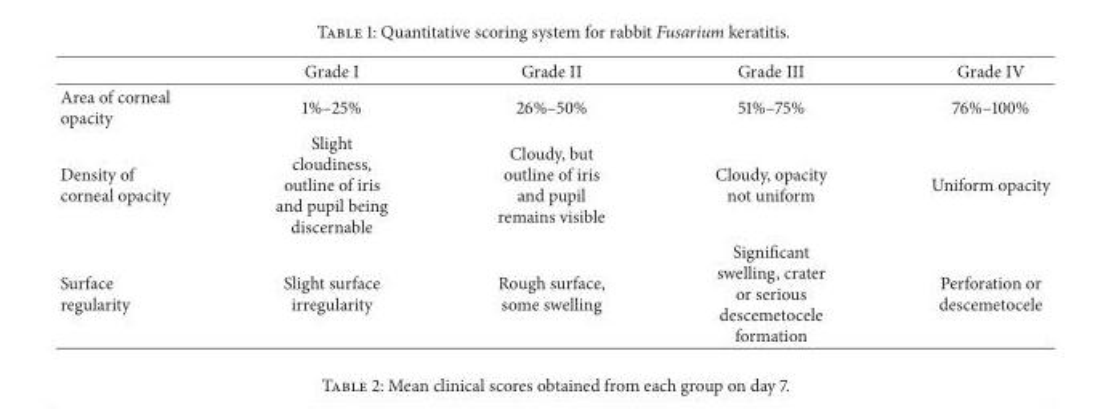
<table><thead><tr><td></td><td>Grade I</td><td>Grade II</td><td>Grade III</td><td>Grade IV</td></tr></thead><tbody><tr><td>Area of corneal opacity</td><td>1%–25%</td><td>26%–50%</td><td>51%–75%</td><td>76%–100%</td></tr><tr><td>Density of corneal opacity</td><td>Slight cloudiness, outline of iris and pupil being discernable</td><td>Cloudy, but outline of iris and pupil remains visible</td><td>Cloudy, opacity not uniform</td><td>Uniform opacity</td></tr><tr><td>Surface regularity</td><td>Slight surface irregularity</td><td>Rough surface, some swelling</td><td>Significant swelling, crater or serious descemetocele formation</td><td>Perforation or descemetocele</td></tr></tbody></table>